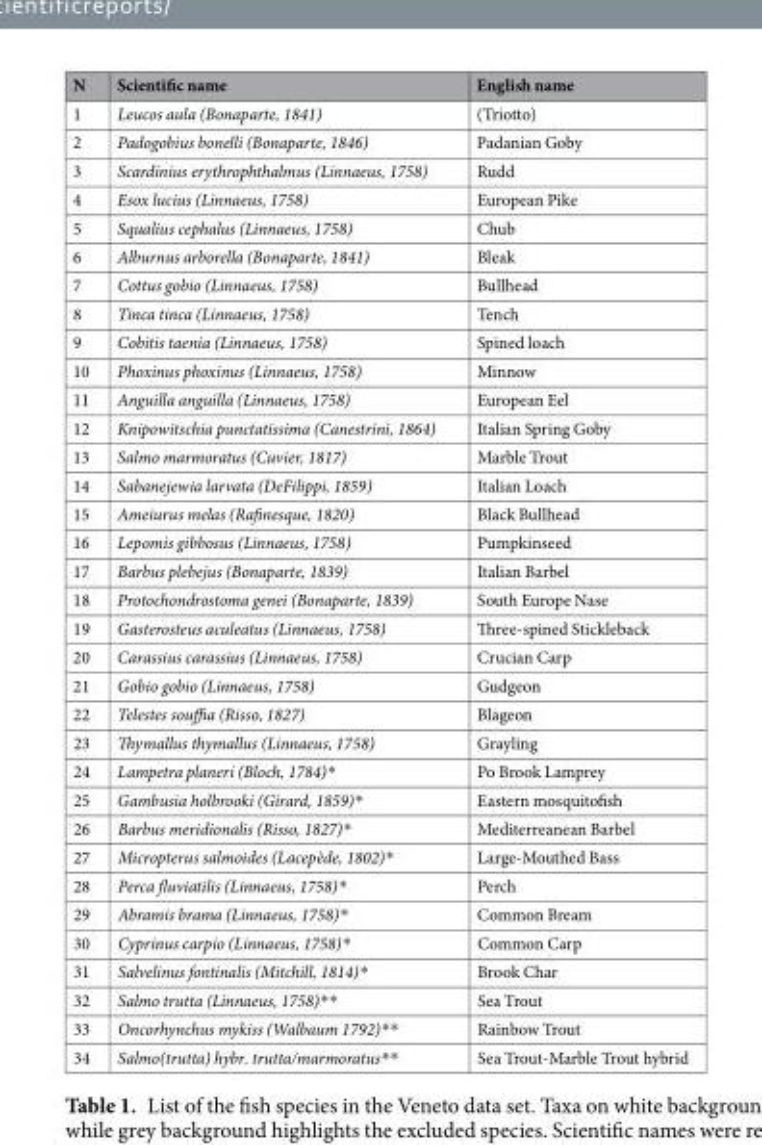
<table><thead><tr><td>N</td><td>Scientific name</td><td>English name</td></tr></thead><tbody><tr><td>1</td><td>Leucos aula (Bonaparte, 1841)</td><td>(Triotto)</td></tr><tr><td>2</td><td>Padogobius bonelli (Bonaparte, 1846)</td><td>Padanian Goby</td></tr><tr><td>3</td><td>Scardinius erythrophthalmus (Linnaeus, 1758)</td><td>Rudd</td></tr><tr><td>4</td><td>Esox lucius (Linnaeus, 1758)</td><td>European Pike</td></tr><tr><td>5</td><td>Squalius cephalus (Linnaeus, 1758)</td><td>Chub</td></tr><tr><td>6</td><td>Alburnus arborella (Bonaparte, 1841)</td><td>Bleak</td></tr><tr><td>7</td><td>Cottus gobio (Linnaeus, 1758)</td><td>Bullhead</td></tr><tr><td>8</td><td>Tinca tinca (Linnaeus, 1758)</td><td>Tench</td></tr><tr><td>9</td><td>Cobitis taenia (Linnaeus, 1758)</td><td>Spined loach</td></tr><tr><td>10</td><td>Phoxinus phoxinus (Linnaeus, 1758)</td><td>Minnow</td></tr><tr><td>11</td><td>Anguilla anguilla (Linnaeus, 1758)</td><td>European Eel</td></tr><tr><td>12</td><td>Knipowitschia punctatissima (Canestrini, 1864)</td><td>Italian Spring Goby</td></tr><tr><td>13</td><td>Salmo marmoratus (Cuvier, 1817)</td><td>Marble Trout</td></tr><tr><td>14</td><td>Sabanejewia larvata (DeFilippi, 1859)</td><td>Italian Loach</td></tr><tr><td>15</td><td>Ameiurus melas (Rafinesque, 1820)</td><td>Black Bullhead</td></tr><tr><td>16</td><td>Lepomis gibbosus (Linnaeus, 1758)</td><td>Pumpkinseed</td></tr><tr><td>17</td><td>Barbus plebejus (Bonaparte, 1839)</td><td>Italian Barbel</td></tr><tr><td>18</td><td>Protochondrostoma genei (Bonaparte, 1839)</td><td>South Europe Nase</td></tr><tr><td>19</td><td>Gasterosteus aculeatus (Linnaeus, 1758)</td><td>Three-spined Stickleback</td></tr><tr><td>20</td><td>Carassius carassius (Linnaeus, 1758)</td><td>Crucian Carp</td></tr><tr><td>21</td><td>Gobio gobio (Linnaeus, 1758)</td><td>Gudgeon</td></tr><tr><td>22</td><td>Telestes souffia (Risso, 1827)</td><td>Blageon</td></tr><tr><td>23</td><td>Thymallus thymallus (Linnaeus, 1758)</td><td>Grayling</td></tr><tr><td>24</td><td>Lampetra planeri (Bloch, 1784)*</td><td>Po Brook Lamprey</td></tr><tr><td>25</td><td>Gambusia holbrooki (Girard, 1859)*</td><td>Eastern mosquitofish</td></tr><tr><td>26</td><td>Barbus meridionalis (Risso, 1827)*</td><td>Mediterreanean Barbel</td></tr><tr><td>27</td><td>Micropterus salmoides (Lacepède, 1802)*</td><td>Large-Mouthed Bass</td></tr><tr><td>28</td><td>Perca fluviatilis (Linnaeus, 1758)*</td><td>Perch</td></tr><tr><td>29</td><td>Abramis brama (Linnaeus, 1758)*</td><td>Common Bream</td></tr><tr><td>30</td><td>Cyprinus carpio (Linnaeus, 1758)*</td><td>Common Carp</td></tr><tr><td>31</td><td>Salvelinus fontinalis (Mitchill, 1814)*</td><td>Brook Char</td></tr><tr><td>32</td><td>Salmo trutta (Linnaeus, 1758)**</td><td>Sea Trout</td></tr><tr><td>33</td><td>Oncorhynchus mykiss (Walbaum 1792)**</td><td>Rainbow Trout</td></tr><tr><td>34</td><td>Salmo(trutta) hybr. trutta/marmoratus**</td><td>Sea Trout-Marble Trout hybrid</td></tr></tbody></table>